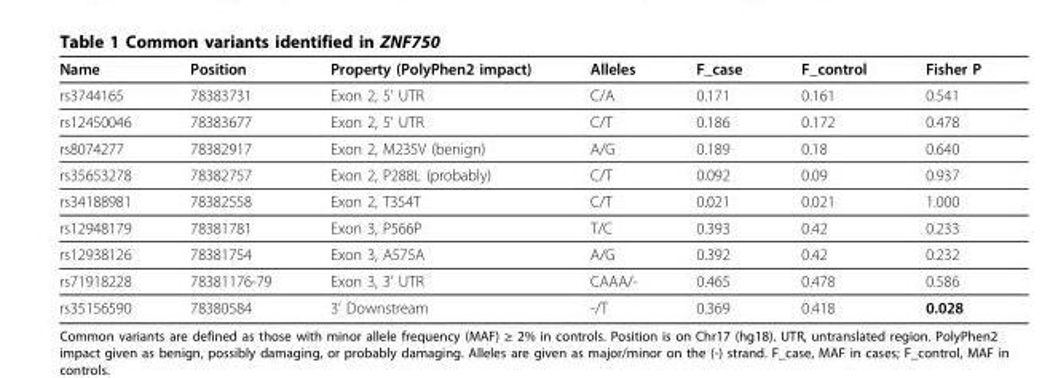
<table><thead><tr><td>Name</td><td>Position</td><td>Property (PolyPhen2 impact)</td><td>Alleles</td><td>F_case</td><td>F_control</td><td>Fisher P</td></tr></thead><tbody><tr><td>rs3744165</td><td>78383731</td><td>Exon 2, 5’ UTR</td><td>C/A</td><td>0.171</td><td>0.161</td><td>0.541</td></tr><tr><td>rs12450046</td><td>78383677</td><td>Exon 2, 5’ UTR</td><td>C/T</td><td>0.186</td><td>0.172</td><td>0.478</td></tr><tr><td>rs8074277</td><td>78382917</td><td>Exon 2, M235V (benign)</td><td>A/G</td><td>0.189</td><td>0.18</td><td>0.640</td></tr><tr><td>rs35653278</td><td>78382757</td><td>Exon 2, P288L (probably)</td><td>C/T</td><td>0.092</td><td>0.09</td><td>0.937</td></tr><tr><td>rs34188981</td><td>78382558</td><td>Exon 2, T354T</td><td>C/T</td><td>0.021</td><td>0.021</td><td>1.000</td></tr><tr><td>rs12948179</td><td>78381781</td><td>Exon 3, P566P</td><td>T/C</td><td>0.393</td><td>0.42</td><td>0.233</td></tr><tr><td>rs12938126</td><td>78381754</td><td>Exon 3, A575A</td><td>A/G</td><td>0.392</td><td>0.42</td><td>0.232</td></tr><tr><td>rs71918228</td><td>78381176-79</td><td>Exon 3, 3’ UTR</td><td>CAAA/-</td><td>0.465</td><td>0.478</td><td>0.586</td></tr><tr><td>rs35156590</td><td>78380584</td><td>3’ Downstream</td><td>-/T</td><td>0.369</td><td>0.418</td><td>0.028</td></tr></tbody></table>